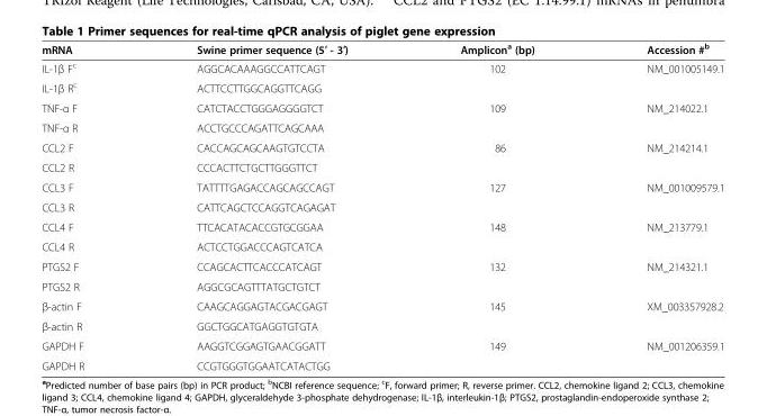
<table><thead><tr><td>mRNA</td><td>Swine primer sequence (5′ - 3′)</td><td>Amplicon<sup>a</sup> (bp)</td><td>Accession #<sup>b</sup></td></tr></thead><tbody><tr><td>IL-1β F<sup>c</sup></td><td>AGGCACAAAGGCCATTCAGT</td><td>102</td><td>NM_001005149.1</td></tr><tr><td>IL-1β R<sup>c</sup></td><td>ACTTCCTTGGCAGGTTCAGG</td><td></td><td></td></tr><tr><td>TNF-α F</td><td>CATCTACCTGGGAGGGGTCT</td><td>109</td><td>NM_214022.1</td></tr><tr><td>TNF-α R</td><td>ACCTGCCCAGATTCAGCAAA</td><td></td><td></td></tr><tr><td>CCL2 F</td><td>CACCAGCAGCAAGTGTCCTA</td><td>86</td><td>NM_214214.1</td></tr><tr><td>CCL2 R</td><td>CCCACTTCTGCTTGGGTTCT</td><td></td><td></td></tr><tr><td>CCL3 F</td><td>TATTTTGAGACCAGCAGCCAGT</td><td>127</td><td>NM_001009579.1</td></tr><tr><td>CCL3 R</td><td>CATTCAGCTCCAGGTCAGAGAT</td><td></td><td></td></tr><tr><td>CCL4 F</td><td>TTCACATACACCGTGCGGAA</td><td>148</td><td>NM_213779.1</td></tr><tr><td>CCL4 R</td><td>ACTCCTGGACCCAGTCATCA</td><td></td><td></td></tr><tr><td>PTGS2 F</td><td>CCAGCACTTCACCCATCAGT</td><td>132</td><td>NM_214321.1</td></tr><tr><td>PTGS2 R</td><td>AGGCGCAGTTTATGCTGTCT</td><td></td><td></td></tr><tr><td>β-actin F</td><td>CAAGCAGGAGTACGACGAGT</td><td>145</td><td>XM_003357928.2</td></tr><tr><td>β-actin R</td><td>GGCTGGCATGAGGTGTGTA</td><td></td><td></td></tr><tr><td>GAPDH F</td><td>AAGGTCGGAGTGAACGGATT</td><td>149</td><td>NM_001206359.1</td></tr><tr><td>GAPDH R</td><td>CCGTGGGTGGAATCATACTGG</td><td></td><td></td></tr></tbody></table>